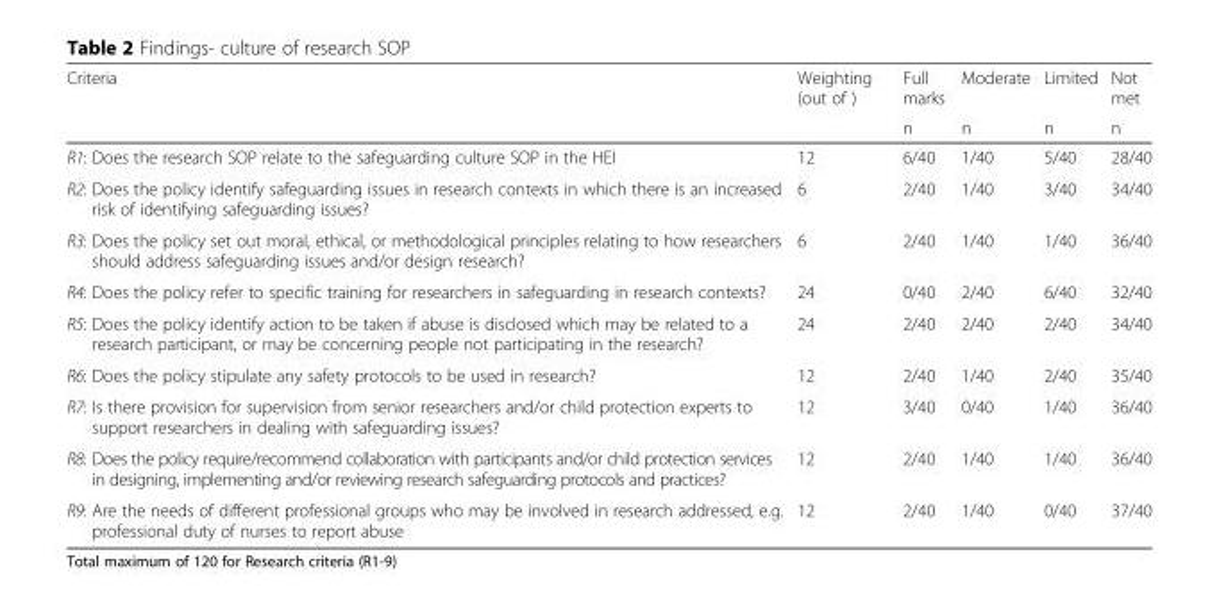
<table><thead><tr><td rowspan="2">Criteria</td><td rowspan="2">Weighting (out of )</td><td rowspan="2">Full marks n</td><td rowspan="2">Moderate n</td><td rowspan="2">Limited n</td><td rowspan="2">Not met n</td></tr><tr></tr></thead><tbody><tr><td>R1: Does the research SOP relate to the safeguarding culture SOP in the HEI</td><td>12</td><td>6/40</td><td>1/40</td><td>5/40</td><td>28/40</td></tr><tr><td>R2: Does the policy identify safeguarding issues in research contexts in which there is an increased risk of identifying safeguarding issues?</td><td>6</td><td>2/40</td><td>1/40</td><td>3/40</td><td>34/40</td></tr><tr><td>R3: Does the policy set out moral, ethical, or methodological principles relating to how researchers should address safeguarding issues and/or design research?</td><td>6</td><td>2/40</td><td>1/40</td><td>1/40</td><td>36/40</td></tr><tr><td>R4: Does the policy refer to specific training for researchers in safeguarding in research contexts?</td><td>24</td><td>0/40</td><td>2/40</td><td>6/40</td><td>32/40</td></tr><tr><td>R5: Does the policy identify action to be taken if abuse is disclosed which may be related to a research participant, or may be concerning people not participating in the research?</td><td>24</td><td>2/40</td><td>2/40</td><td>2/40</td><td>34/40</td></tr><tr><td>R6: Does the policy stipulate any safety protocols to be used in research?</td><td>12</td><td>2/40</td><td>1/40</td><td>2/40</td><td>35/40</td></tr><tr><td>R7: Is there provision for supervision from senior researchers and/or child protection experts to support researchers in dealing with safeguarding issues?</td><td>12</td><td>3/40</td><td>0/40</td><td>1/40</td><td>36/40</td></tr><tr><td>R8: Does the policy require/recommend collaboration with participants and/or child protection services in designing, implementing and/or reviewing research safeguarding protocols and practices?</td><td>12</td><td>2/40</td><td>1/40</td><td>1/40</td><td>36/40</td></tr><tr><td>R9: Are the needs of different professional groups who may be involved in research addressed, e.g. professional duty of nurses to report abuse</td><td>12</td><td>2/40</td><td>1/40</td><td>0/40</td><td>37/40</td></tr></tbody></table>